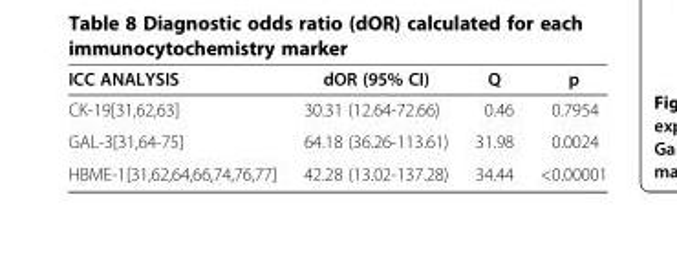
<table><thead><tr><td>ICC ANALYSIS</td><td>dOR (95% CI)</td><td>Q</td><td>p</td></tr></thead><tbody><tr><td>CK-19[31,62,63]</td><td>30.31 (12.64-72.66)</td><td>0.46</td><td>0.7954</td></tr><tr><td>GAL-3[31,64-75]</td><td>64.18 (36.26-113.61)</td><td>31.98</td><td>0.0024</td></tr><tr><td>HBME-1[31,62,64,66,74,76,77]</td><td>42.28 (13.02-137.28)</td><td>34.44</td><td>&lt;0.00001</td></tr></tbody></table>